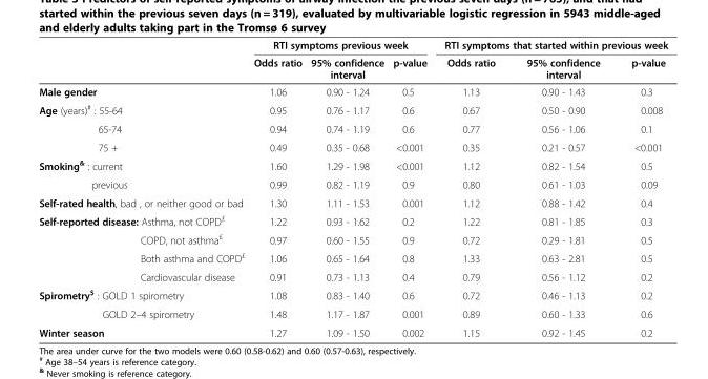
<table><thead><tr><td rowspan="2"></td><td colspan="3">RTI symptoms previous week</td><td colspan="3">RTI symptoms that started within previous week</td></tr><tr><td>Odds ratio</td><td>95% confidence interval</td><td>p-value</td><td>Odds ratio</td><td>95% confidence interval</td><td>p-value</td></tr></thead><tbody><tr><td>Male gender</td><td>1.06</td><td>0.90 - 1.24</td><td>0.5</td><td>1.13</td><td>0.90 - 1.43</td><td>0.3</td></tr><tr><td>Age (years)<sup>#</sup> : 55-64</td><td>0.95</td><td>0.76 - 1.17</td><td>0.6</td><td>0.67</td><td>0.50 - 0.90</td><td>0.008</td></tr><tr><td>65-74</td><td>0.94</td><td>0.74 - 1.19</td><td>0.6</td><td>0.77</td><td>0.56 - 1.06</td><td>0.1</td></tr><tr><td>75 +</td><td>0.49</td><td>0.35 - 0.68</td><td>&lt;0.001</td><td>0.35</td><td>0.21 - 0.57</td><td>&lt;0.001</td></tr><tr><td>Smoking<sup>&amp;</sup> : current</td><td>1.60</td><td>1.29 - 1.98</td><td>&lt;0.001</td><td>1.12</td><td>0.82 - 1.54</td><td>0.5</td></tr><tr><td>previous</td><td>0.99</td><td>0.82 - 1.19</td><td>0.9</td><td>0.80</td><td>0.61 - 1.03</td><td>0.09</td></tr><tr><td>Self-rated health, bad , or neither good or bad</td><td>1.30</td><td>1.11 - 1.53</td><td>0.001</td><td>1.12</td><td>0.88 - 1.42</td><td>0.4</td></tr><tr><td>Self-reported disease: Asthma, not COPD<sup>£</sup></td><td>1.22</td><td>0.93 - 1.62</td><td>0.2</td><td>1.22</td><td>0.81 - 1.85</td><td>0.3</td></tr><tr><td>COPD, not asthma<sup>£</sup></td><td>0.97</td><td>0.60 - 1.55</td><td>0.9</td><td>0.72</td><td>0.29 - 1.81</td><td>0.5</td></tr><tr><td>Both asthma and COPD<sup>£</sup></td><td>1.06</td><td>0.65 - 1.64</td><td>0.8</td><td>1.33</td><td>0.63 - 2.81</td><td>0.5</td></tr><tr><td>Cardiovascular disease</td><td>0.91</td><td>0.73 - 1.13</td><td>0.4</td><td>0.79</td><td>0.56 - 1.12</td><td>0.2</td></tr><tr><td>Spirometry<sup>$</sup> : GOLD 1 spirometry</td><td>1.08</td><td>0.83 - 1.40</td><td>0.6</td><td>0.72</td><td>0.46 - 1.13</td><td>0.2</td></tr><tr><td>GOLD 2–4 spirometry</td><td>1.48</td><td>1.17 - 1.87</td><td>0.001</td><td>0.89</td><td>0.60 - 1.33</td><td>0.6</td></tr><tr><td>Winter season</td><td>1.27</td><td>1.09 - 1.50</td><td>0.002</td><td>1.15</td><td>0.92 - 1.45</td><td>0.2</td></tr></tbody></table>